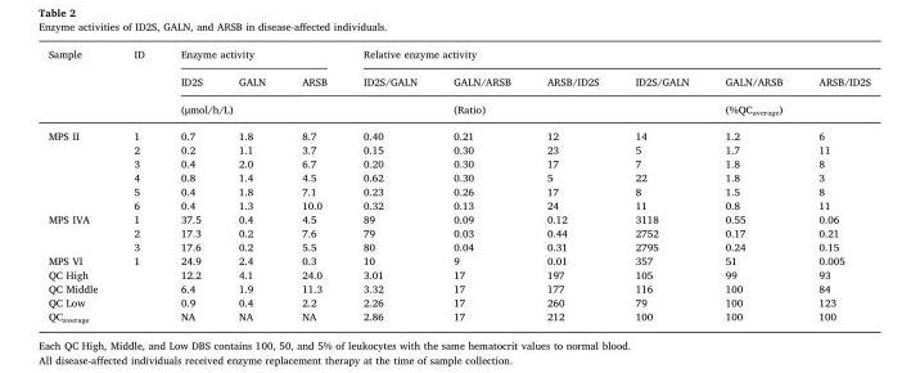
<table><thead><tr><td rowspan="3">Sample</td><td rowspan="3">ID</td><td colspan="3">Enzyme activity</td><td colspan="6">Relative enzyme activity</td></tr><tr><td>ID2S</td><td>GALN</td><td>ARSB</td><td rowspan="2">ID2S/GALN</td><td rowspan="2">GALN/ARSB (Ratio)</td><td rowspan="2">ARSB/ID2S</td><td rowspan="2">ID2S/GALN</td><td>GALN/ARSB</td><td>ARSB/ID2S</td></tr><tr><td colspan="3">(μmol/h/L)</td><td colspan="2">(%QC<sub>average</sub>)</td></tr></thead><tbody><tr><td rowspan="6">MPS II</td><td>1</td><td>0.7</td><td>1.8</td><td>8.7</td><td>0.40</td><td>0.21</td><td>12</td><td>14</td><td>1.2</td><td>6</td></tr><tr><td>2</td><td>0.2</td><td>1.1</td><td>3.7</td><td>0.15</td><td>0.30</td><td>23</td><td>5</td><td>1.7</td><td>11</td></tr><tr><td>3</td><td>0.4</td><td>2.0</td><td>6.7</td><td>0.20</td><td>0.30</td><td>17</td><td>7</td><td>1.8</td><td>8</td></tr><tr><td>4</td><td>0.8</td><td>1.4</td><td>4.5</td><td>0.62</td><td>0.30</td><td>5</td><td>22</td><td>1.8</td><td>3</td></tr><tr><td>5</td><td>0.4</td><td>1.8</td><td>7.1</td><td>0.23</td><td>0.26</td><td>17</td><td>8</td><td>1.5</td><td>8</td></tr><tr><td>6</td><td>0.4</td><td>1.3</td><td>10.0</td><td>0.32</td><td>0.13</td><td>24</td><td>11</td><td>0.8</td><td>11</td></tr><tr><td rowspan="3">MPS IVA</td><td>1</td><td>37.5</td><td>0.4</td><td>4.5</td><td>89</td><td>0.09</td><td>0.12</td><td>3118</td><td>0.55</td><td>0.06</td></tr><tr><td>2</td><td>17.3</td><td>0.2</td><td>7.6</td><td>79</td><td>0.03</td><td>0.44</td><td>2752</td><td>0.17</td><td>0.21</td></tr><tr><td>3</td><td>17.6</td><td>0.2</td><td>5.5</td><td>80</td><td>0.04</td><td>0.31</td><td>2795</td><td>0.24</td><td>0.15</td></tr><tr><td>MPS VI</td><td>1</td><td>24.9</td><td>2.4</td><td>0.3</td><td>10</td><td>9</td><td>0.01</td><td>357</td><td>51</td><td>0.005</td></tr><tr><td>QC High</td><td></td><td>12.2</td><td>4.1</td><td>24.0</td><td>3.01</td><td>17</td><td>197</td><td>105</td><td>99</td><td>93</td></tr><tr><td>QC Middle</td><td></td><td>6.4</td><td>1.9</td><td>11.3</td><td>3.32</td><td>17</td><td>177</td><td>116</td><td>100</td><td>84</td></tr><tr><td>QC Low</td><td></td><td>0.9</td><td>0.4</td><td>2.2</td><td>2.26</td><td>17</td><td>260</td><td>79</td><td>100</td><td>123</td></tr><tr><td>QC<sub>average</sub></td><td></td><td>NA</td><td>NA</td><td>NA</td><td>2.86</td><td>17</td><td>212</td><td>100</td><td>100</td><td>100</td></tr></tbody></table>